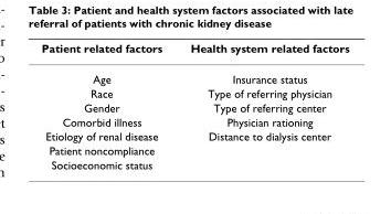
<table><thead><tr><td>Patient related factors</td><td>Health system related factors</td></tr></thead><tbody><tr><td>Age</td><td>Insurance status</td></tr><tr><td>Race</td><td>Type of referring physician</td></tr><tr><td>Gender</td><td>Type of referring center</td></tr><tr><td>Comorbid illness</td><td>Physician rationing</td></tr><tr><td>Etiology of renal disease</td><td>Distance to dialysis center</td></tr><tr><td colspan="2">Patient noncompliance</td></tr><tr><td>Socioeconomic status</td><td></td></tr></tbody></table>